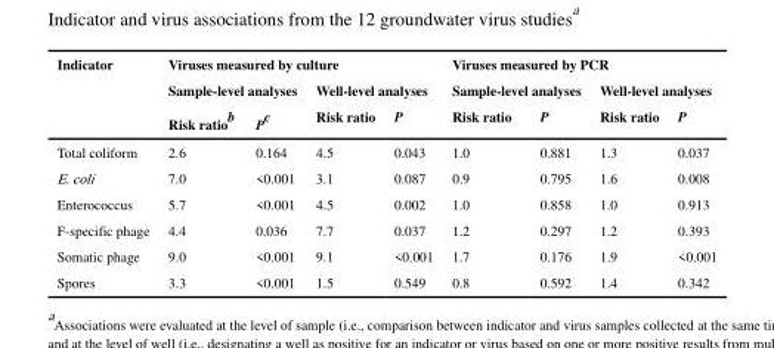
<table><thead><tr><td rowspan="3">Indicator</td><td colspan="4">Viruses measured by culture</td><td colspan="4">Viruses measured by PCR</td></tr><tr><td colspan="2">Sample-level analyses</td><td colspan="2">Well-level analyses</td><td colspan="2">Sample-level analyses</td><td colspan="2">Well-level analyses</td></tr><tr><td>Risk ratio<sup>b</sup></td><td>P<sup>c</sup></td><td>Risk ratio</td><td>P</td><td>Risk ratio</td><td>P</td><td>Risk ratio</td><td>P</td></tr></thead><tbody><tr><td>Total coliform</td><td>2.6</td><td>0.164</td><td>4.5</td><td>0.043</td><td>1.0</td><td>0.881</td><td>1.3</td><td>0.037</td></tr><tr><td>E. coli</td><td>7.0</td><td>&lt;0.001</td><td>3.1</td><td>0.087</td><td>0.9</td><td>0.795</td><td>1.6</td><td>0.008</td></tr><tr><td>Enterococcus</td><td>5.7</td><td>&lt;0.001</td><td>4.5</td><td>0.002</td><td>1.0</td><td>0.858</td><td>1.0</td><td>0.913</td></tr><tr><td>F-specific phage</td><td>4.4</td><td>0.036</td><td>7.7</td><td>0.037</td><td>1.2</td><td>0.297</td><td>1.2</td><td>0.393</td></tr><tr><td>Somatic phage</td><td>9.0</td><td>&lt;0.001</td><td>9.1</td><td>&lt;0.001</td><td>1.7</td><td>0.176</td><td>1.9</td><td>&lt;0.001</td></tr><tr><td>Spores</td><td>3.3</td><td>&lt;0.001</td><td>1.5</td><td>0.549</td><td>0.8</td><td>0.592</td><td>1.4</td><td>0.342</td></tr></tbody></table>